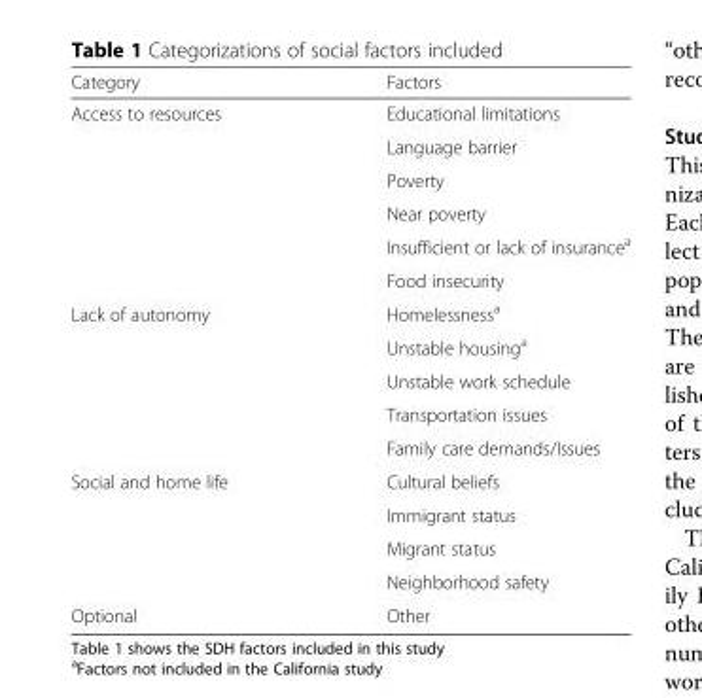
<table><thead><tr><td>Category</td><td>Factors</td></tr></thead><tbody><tr><td rowspan="6">Access to resources</td><td>Educational limitations</td></tr><tr><td>Language barrier</td></tr><tr><td>Poverty</td></tr><tr><td>Near poverty</td></tr><tr><td>Insufficient or lack of insurance<sup>a</sup></td></tr><tr><td>Food insecurity</td></tr><tr><td rowspan="5">Lack of autonomy</td><td>Homelessness<sup>a</sup></td></tr><tr><td>Unstable housing<sup>a</sup></td></tr><tr><td>Unstable work schedule</td></tr><tr><td>Transportation issues</td></tr><tr><td>Family care demands/Issues</td></tr><tr><td rowspan="4">Social and home life</td><td>Cultural beliefs</td></tr><tr><td>Immigrant status</td></tr><tr><td>Migrant status</td></tr><tr><td>Neighborhood safety</td></tr><tr><td>Optional</td><td>Other</td></tr></tbody></table>